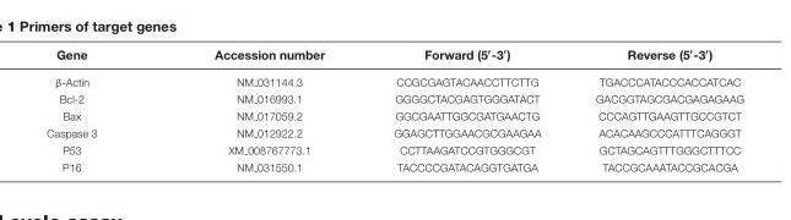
<table><thead><tr><td>Gene</td><td>Accession number</td><td>Forward (5′-3′)</td><td>Reverse (5′-3′)</td></tr></thead><tbody><tr><td>β-Actin</td><td>NM 031144.3</td><td>CCGCGAGTACAACCTTCTTG</td><td>TGACCCATACCCACCATCAC</td></tr><tr><td>Bcl-2</td><td>NM 016993.1</td><td>GGGGCTACGAGTGGGATACT</td><td>GACGGTAGCGACGAGAGAAG</td></tr><tr><td>Bax</td><td>NM 017059.2</td><td>GGCGAATTGGCGATGAACTG</td><td>CCCAGTTGAAGTTGCCGTCT</td></tr><tr><td>Caspase 3</td><td>NM 012922.2</td><td>GGAGCTTGGAACGCGAAGAA</td><td>ACACAAGCCCATTTCAGGGT</td></tr><tr><td>P53</td><td>XM 008767773.1</td><td>CCTTAAGATCCGTGGGCGT</td><td>GCTAGCAGTTTGGGCTTTCC</td></tr><tr><td>P16</td><td>NM 031550.1</td><td>TACCCCGATACAGGTGATGA</td><td>TACCGCAAATACCGCACGA</td></tr></tbody></table>